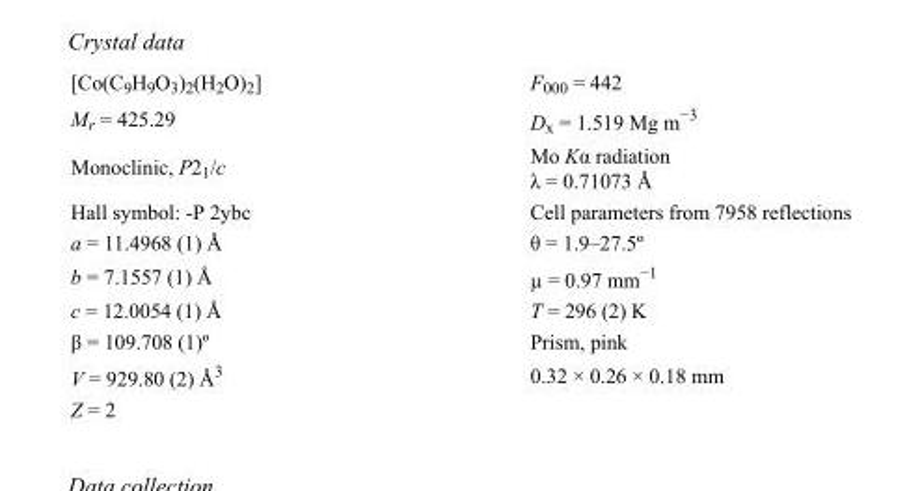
<table><tbody><tr><td>[Co(C<sub>9</sub>H<sub>9</sub>O<sub>3</sub>)<sub>2</sub>(H<sub>2</sub>O)<sub>2</sub>]</td><td>F<sub>000</sub> = 442</td></tr><tr><td>M<sub>r</sub> = 425.29</td><td>D<sub>x</sub> = 1.519 Mg m<sup>−3</sup></td></tr><tr><td>Monoclinic, P2<sub>1</sub>/c</td><td>Mo Kα radiation λ = 0.71073 Å</td></tr><tr><td>Hall symbol: -P 2ybc</td><td>Cell parameters from 7958 reflections</td></tr><tr><td>a = 11.4968 (1) Å</td><td>θ = 1.9–27.5º</td></tr><tr><td>b = 7.1557 (1) Å</td><td>µ = 0.97 mm<sup>−1</sup></td></tr><tr><td>c = 12.0054 (1) Å</td><td>T = 296 (2) K</td></tr><tr><td>β = 109.708 (1)º</td><td>Prism, pink</td></tr><tr><td>V = 929.80 (2) Å<sup>3</sup></td><td>0.32 × 0.26 × 0.18 mm</td></tr><tr><td>Z = 2</td><td></td></tr></tbody></table>